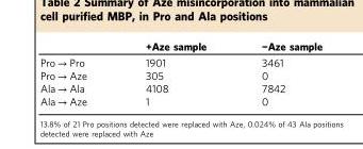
<table><thead><tr><td></td><td>+Aze sample</td><td>−Aze sample</td></tr></thead><tbody><tr><td>Pro → Pro</td><td>1901</td><td>3461</td></tr><tr><td>Pro → Aze</td><td>305</td><td>0</td></tr><tr><td>Ala → Ala</td><td>4108</td><td>7842</td></tr><tr><td>Ala → Aze</td><td>1</td><td>0</td></tr></tbody></table>